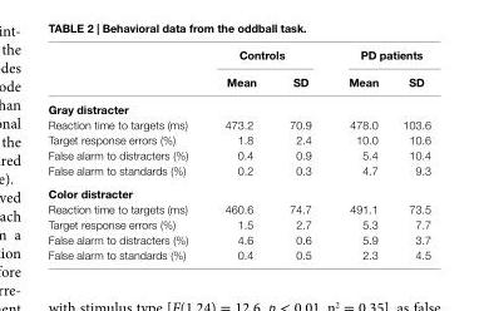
<table><thead><tr><td rowspan="2"></td><td colspan="2">controls</td><td colspan="2">PD patients</td></tr><tr><td>Mean</td><td>sD</td><td>Mean</td><td>sD</td></tr></thead><tbody><tr><td colspan="5">gray distracter</td></tr><tr><td>Reaction time to targets (ms)</td><td>473.2</td><td>70.9</td><td>478.0</td><td>103.6</td></tr><tr><td>Target response errors (%)</td><td>1.8</td><td>2.4</td><td>10.0</td><td>10.6</td></tr><tr><td>False alarm to distracters (%)</td><td>0.4</td><td>0.9</td><td>5.4</td><td>10.4</td></tr><tr><td>False alarm to standards (%)</td><td>0.2</td><td>0.3</td><td>4.7</td><td>9.3</td></tr><tr><td colspan="5">color distracter</td></tr><tr><td>Reaction time to targets (ms)</td><td>460.6</td><td>74.7</td><td>491.1</td><td>73.5</td></tr><tr><td>Target response errors (%)</td><td>1.5</td><td>2.7</td><td>5.3</td><td>7.7</td></tr><tr><td>False alarm to distracters (%)</td><td>4.6</td><td>0.6</td><td>5.9</td><td>3.7</td></tr><tr><td>False alarm to standards (%)</td><td>0.4</td><td>0.5</td><td>2.3</td><td>4.5</td></tr></tbody></table>